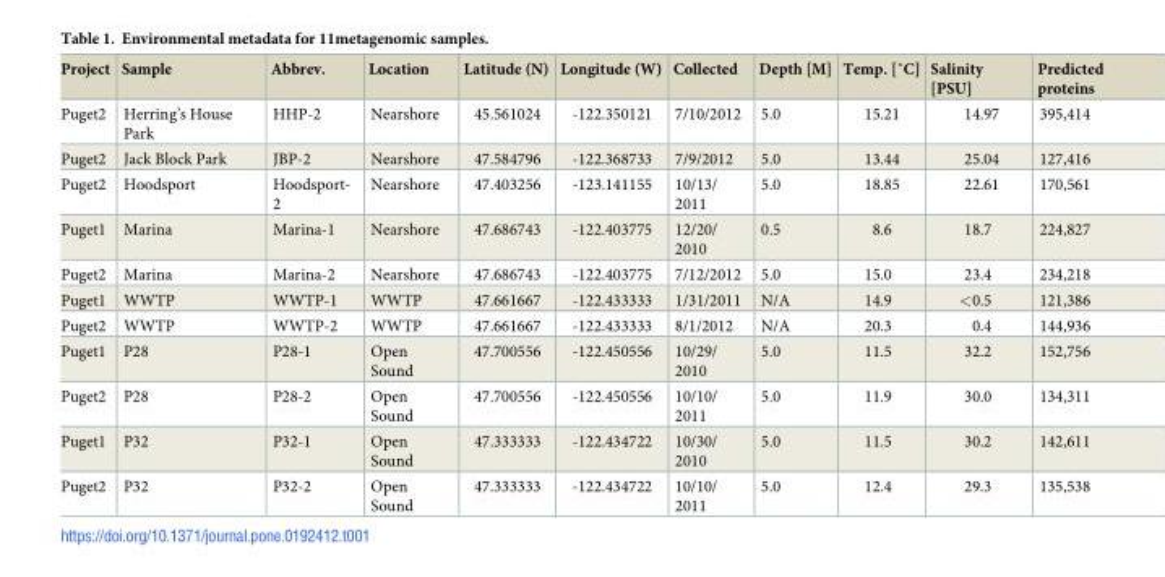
<table><thead><tr><td>Project</td><td>Sample</td><td>Abbrev.</td><td>Location</td><td>Latitude (N)</td><td>Longitude (W)</td><td>Collected</td><td>Depth [M]</td><td>Temp. [˚C]</td><td>Salinity [PSU]</td><td>Predicted proteins</td></tr></thead><tbody><tr><td>Puget2</td><td>Herring’s House Park</td><td>HHP-2</td><td>Nearshore</td><td>45.561024</td><td>-122.350121</td><td>7/10/2012</td><td>5.0</td><td>15.21</td><td>14.97</td><td>395,414</td></tr><tr><td>Puget2</td><td>Jack Block Park</td><td>JBP-2</td><td>Nearshore</td><td>47.584796</td><td>-122.368733</td><td>7/9/2012</td><td>5.0</td><td>13.44</td><td>25.04</td><td>127,416</td></tr><tr><td>Puget2</td><td>Hoodsport</td><td>Hoodsport- 2</td><td>Nearshore</td><td>47.403256</td><td>-123.141155</td><td>10/13/ 2011</td><td>5.0</td><td>18.85</td><td>22.61</td><td>170,561</td></tr><tr><td>Puget1</td><td>Marina</td><td>Marina-1</td><td>Nearshore</td><td>47.686743</td><td>-122.403775</td><td>12/20/ 2010</td><td>0.5</td><td>8.6</td><td>18.7</td><td>224,827</td></tr><tr><td>Puget2</td><td>Marina</td><td>Marina-2</td><td>Nearshore</td><td>47.686743</td><td>-122.403775</td><td>7/12/2012</td><td>5.0</td><td>15.0</td><td>23.4</td><td>234,218</td></tr><tr><td>Puget1</td><td>WWTP</td><td>WWTP-1</td><td>WWTP</td><td>47.661667</td><td>-122.433333</td><td>1/31/2011</td><td>N/A</td><td>14.9</td><td>&lt;0.5</td><td>121,386</td></tr><tr><td>Puget2</td><td>WWTP</td><td>WWTP-2</td><td>WWTP</td><td>47.661667</td><td>-122.433333</td><td>8/1/2012</td><td>N/A</td><td>20.3</td><td>0.4</td><td>144,936</td></tr><tr><td>Puget1</td><td>P28</td><td>P28-1</td><td>Open Sound</td><td>47.700556</td><td>-122.450556</td><td>10/29/ 2010</td><td>5.0</td><td>11.5</td><td>32.2</td><td>152,756</td></tr><tr><td>Puget2</td><td>P28</td><td>P28-2</td><td>Open Sound</td><td>47.700556</td><td>-122.450556</td><td>10/10/ 2011</td><td>5.0</td><td>11.9</td><td>30.0</td><td>134,311</td></tr><tr><td>Puget1</td><td>P32</td><td>P32-1</td><td>Open Sound</td><td>47.333333</td><td>-122.434722</td><td>10/30/ 2010</td><td>5.0</td><td>11.5</td><td>30.2</td><td>142,611</td></tr><tr><td>Puget2</td><td>P32</td><td>P32-2</td><td>Open Sound</td><td>47.333333</td><td>-122.434722</td><td>10/10/ 2011</td><td>5.0</td><td>12.4</td><td>29.3</td><td>135,538</td></tr></tbody></table>